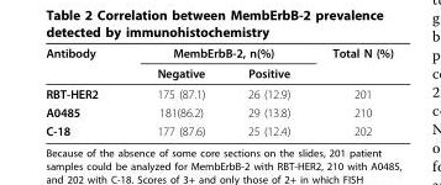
<table><thead><tr><td rowspan="2">Antibody</td><td colspan="2">MembErbB-2, n(%)</td><td rowspan="2">Total N (%)</td></tr><tr><td>Negative</td><td>Positive</td></tr></thead><tbody><tr><td>RBT-HER2</td><td>175 (87.1)</td><td>26 (12.9)</td><td>201</td></tr><tr><td>A0485</td><td>181(86.2)</td><td>29 (13.8)</td><td>210</td></tr><tr><td>C-18</td><td>177 (87.6)</td><td>25 (12.4)</td><td>202</td></tr></tbody></table>